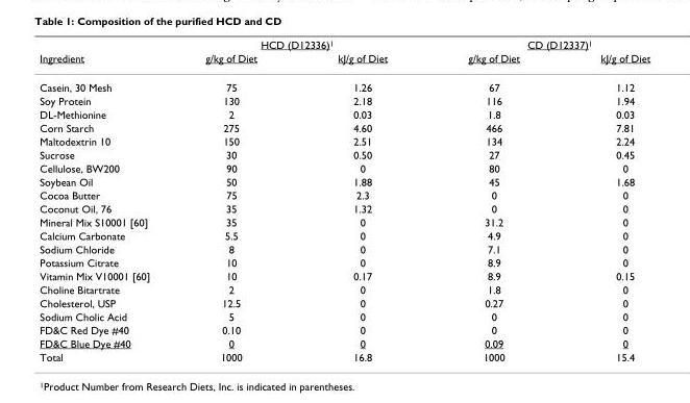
<table><thead><tr><td rowspan="2">Ingredient</td><td colspan="2">HCD (D12336)<sup>1</sup></td><td colspan="2">CD (D12337)<sup>1</sup></td></tr><tr><td>g/kg of Diet</td><td>kJ/g of Diet</td><td>g/kg of Diet</td><td>kJ/g of Diet</td></tr></thead><tbody><tr><td>Casein, 30 Mesh</td><td>75</td><td>1.26</td><td>67</td><td>1.12</td></tr><tr><td>Soy Protein</td><td>130</td><td>2.18</td><td>116</td><td>1.94</td></tr><tr><td>DL-Methionine</td><td>2</td><td>0.03</td><td>1.8</td><td>0.03</td></tr><tr><td>Corn Starch</td><td>275</td><td>4.60</td><td>466</td><td>7.81</td></tr><tr><td>Maltodextrin 10</td><td>150</td><td>2.51</td><td>134</td><td>2.24</td></tr><tr><td>Sucrose</td><td>30</td><td>0.50</td><td>27</td><td>0.45</td></tr><tr><td>Cellulose, BW200</td><td>90</td><td>0</td><td>80</td><td>0</td></tr><tr><td>Soybean Oil</td><td>50</td><td>1.88</td><td>45</td><td>1.68</td></tr><tr><td>Cocoa Butter</td><td>75</td><td>2.3</td><td>0</td><td>0</td></tr><tr><td>Coconut Oil, 76</td><td>35</td><td>1.32</td><td>0</td><td>0</td></tr><tr><td>Mineral Mix S10001 [60]</td><td>35</td><td>0</td><td>31.2</td><td>0</td></tr><tr><td>Calcium Carbonate</td><td>5.5</td><td>0</td><td>4.9</td><td>0</td></tr><tr><td>Sodium Chloride</td><td>8</td><td>0</td><td>7.1</td><td>0</td></tr><tr><td>Potassium Citrate</td><td>10</td><td>0</td><td>8.9</td><td>0</td></tr><tr><td>Vitamin Mix V10001 [60]</td><td>10</td><td>0.17</td><td>8.9</td><td>0.15</td></tr><tr><td>Choline Bitartrate</td><td>2</td><td>0</td><td>1.8</td><td>0</td></tr><tr><td>Cholesterol, USP</td><td>12.5</td><td>0</td><td>0.27</td><td>0</td></tr><tr><td>Sodium Cholic Acid</td><td>5</td><td>0</td><td>0</td><td>0</td></tr><tr><td>FD&amp;C Red Dye #40</td><td>0.10</td><td>0</td><td>0</td><td>0</td></tr><tr><td>FD&amp;C Blue Dye #40</td><td>0</td><td>0</td><td>0.09</td><td>0</td></tr><tr><td>Total</td><td>1000</td><td>16.8</td><td>1000</td><td>15.4</td></tr></tbody></table>